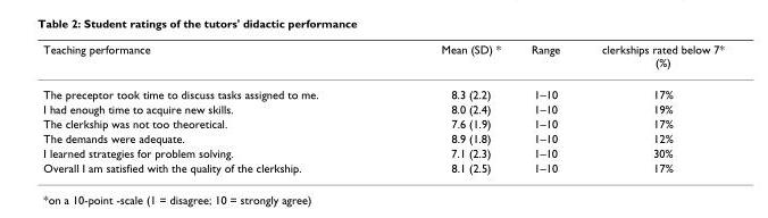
<table><thead><tr><td>Teaching performance</td><td>Mean (SD) *</td><td>Range</td><td>clerkships rated below 7* (%)</td></tr></thead><tbody><tr><td>The preceptor took time to discuss tasks assigned to me.</td><td>8.3 (2.2)</td><td>1–10</td><td>17%</td></tr><tr><td>I had enough time to acquire new skills.</td><td>8.0 (2.4)</td><td>1–10</td><td>19%</td></tr><tr><td>The clerkship was not too theoretical.</td><td>7.6 (1.9)</td><td>1–10</td><td>17%</td></tr><tr><td>The demands were adequate.</td><td>8.9 (1.8)</td><td>1–10</td><td>12%</td></tr><tr><td>I learned strategies for problem solving.</td><td>7.1 (2.3)</td><td>1–10</td><td>30%</td></tr><tr><td>Overall I am satisfied with the quality of the clerkship.</td><td>8.1 (2.5)</td><td>1–10</td><td>17%</td></tr></tbody></table>